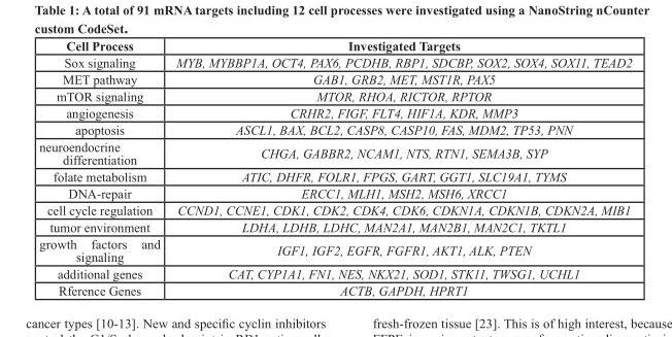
<table><thead><tr><td>Cell Process</td><td>Investigated Targets</td></tr></thead><tbody><tr><td>Sox signaling</td><td>MYB, MYBBP1A, OCT4, PAX6, PCDHB, RBP1, SDCBP, SOX2, SOX4, SOX11, TEAD2</td></tr><tr><td>MET pathway</td><td>GAB1, GRB2, MET, MST1R, PAX5</td></tr><tr><td>mTOR signaling</td><td>MTOR, RHOA, RICTOR, RPTOR</td></tr><tr><td>angiogenesis</td><td>CRHR2, FIGF, FLT4, HIF1A, KDR, MMP3</td></tr><tr><td>apoptosis</td><td>ASCL1, BAX, BCL2, CASP8, CASP10, FAS, MDM2, TP53, PNN</td></tr><tr><td>neuroendocrine differentiation</td><td>CHGA, GABBR2, NCAM1, NTS, RTN1, SEMA3B, SYP</td></tr><tr><td>folate metabolism</td><td>ATIC, DHFR, FOLR1, FPGS, GART, GGT1, SLC19A1, TYMS</td></tr><tr><td>DNA-repair</td><td>ERCC1, MLH1, MSH2, MSH6, XRCC1</td></tr><tr><td>cell cycle regulation</td><td>CCND1, CCNE1, CDK1, CDK2, CDK4, CDK6, CDKN1A, CDKN1B, CDKN2A, MIB1</td></tr><tr><td>tumor environment</td><td>LDHA, LDHB, LDHC, MAN2A1, MAN2B1, MAN2C1, TKTL1</td></tr><tr><td>growth factors and signaling</td><td>IGF1, IGF2, EGFR, FGFR1, AKT1, ALK, PTEN</td></tr><tr><td>additional genes</td><td>CAT, CYP1A1, FN1, NES, NKX21, SOD1, STK11, TWSG1, UCHL1</td></tr><tr><td>Rference Genes</td><td>ACTB, GAPDH, HPRT1</td></tr></tbody></table>